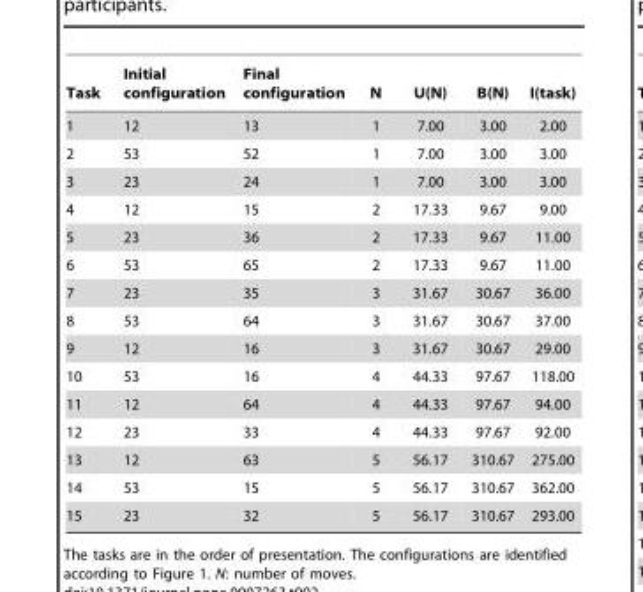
<table><thead><tr><td>Task</td><td>Initial configuration</td><td>Final configuration</td><td>N</td><td>U(N)</td><td>B(N)</td><td>I(task)</td></tr></thead><tbody><tr><td>1</td><td>12</td><td>13</td><td>1</td><td>7.00</td><td>3.00</td><td>2.00</td></tr><tr><td>2</td><td>53</td><td>52</td><td>1</td><td>7.00</td><td>3.00</td><td>3.00</td></tr><tr><td>3</td><td>23</td><td>24</td><td>1</td><td>7.00</td><td>3.00</td><td>3.00</td></tr><tr><td>4</td><td>12</td><td>15</td><td>2</td><td>17.33</td><td>9.67</td><td>9.00</td></tr><tr><td>5</td><td>23</td><td>36</td><td>2</td><td>17.33</td><td>9.67</td><td>11.00</td></tr><tr><td>6</td><td>53</td><td>65</td><td>2</td><td>17.33</td><td>9.67</td><td>11.00</td></tr><tr><td>7</td><td>23</td><td>35</td><td>3</td><td>31.67</td><td>30.67</td><td>36.00</td></tr><tr><td>8</td><td>53</td><td>64</td><td>3</td><td>31.67</td><td>30.67</td><td>37.00</td></tr><tr><td>9</td><td>12</td><td>16</td><td>3</td><td>31.67</td><td>30.67</td><td>29.00</td></tr><tr><td>10</td><td>53</td><td>16</td><td>4</td><td>44.33</td><td>97.67</td><td>118.00</td></tr><tr><td>11</td><td>12</td><td>64</td><td>4</td><td>44.33</td><td>97.67</td><td>94.00</td></tr><tr><td>12</td><td>23</td><td>33</td><td>4</td><td>44.33</td><td>97.67</td><td>92.00</td></tr><tr><td>13</td><td>12</td><td>63</td><td>5</td><td>56.17</td><td>310.67</td><td>275.00</td></tr><tr><td>14</td><td>53</td><td>15</td><td>5</td><td>56.17</td><td>310.67</td><td>362.00</td></tr><tr><td>15</td><td>23</td><td>32</td><td>5</td><td>56.17</td><td>310.67</td><td>293.00</td></tr></tbody></table>